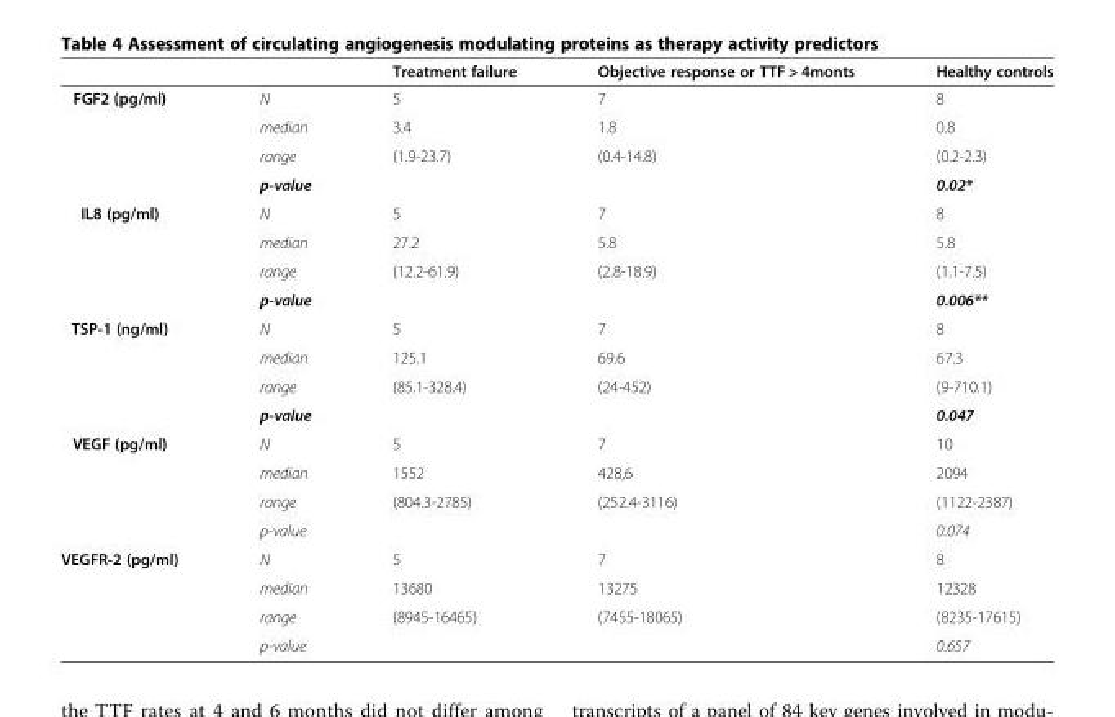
<table><thead><tr><td></td><td></td><td>Treatment failure</td><td>Objective response or TTF &gt; 4monts</td><td>Healthy controls</td></tr></thead><tbody><tr><td rowspan="4">FGF2 (pg/ml)</td><td>N</td><td>5</td><td>7</td><td>8</td></tr><tr><td>median</td><td>3.4</td><td>1.8</td><td>0.8</td></tr><tr><td>range</td><td>(1.9-23.7)</td><td>(0.4-14.8)</td><td>(0.2-2.3)</td></tr><tr><td>p-value</td><td></td><td></td><td>0.02*</td></tr><tr><td rowspan="4">IL8 (pg/ml)</td><td>N</td><td>5</td><td>7</td><td>8</td></tr><tr><td>median</td><td>27.2</td><td>5.8</td><td>5.8</td></tr><tr><td>range</td><td>(12.2-61.9)</td><td>(2.8-18.9)</td><td>(1.1-7.5)</td></tr><tr><td>p-value</td><td></td><td></td><td>0.006**</td></tr><tr><td rowspan="4">TSP-1 (ng/ml)</td><td>N</td><td>5</td><td>7</td><td>8</td></tr><tr><td>median</td><td>125.1</td><td>69.6</td><td>67.3</td></tr><tr><td>range</td><td>(85.1-328.4)</td><td>(24-452)</td><td>(9-710.1)</td></tr><tr><td>p-value</td><td></td><td></td><td>0.047</td></tr><tr><td rowspan="4">VEGF (pg/ml)</td><td>N</td><td>5</td><td>7</td><td>10</td></tr><tr><td>median</td><td>1552</td><td>428,6</td><td>2094</td></tr><tr><td>range</td><td>(804.3-2785)</td><td>(252.4-3116)</td><td>(1122-2387)</td></tr><tr><td>p-value</td><td></td><td></td><td>0.074</td></tr><tr><td rowspan="4">VEGFR-2 (pg/ml)</td><td>N</td><td>5</td><td>7</td><td>8</td></tr><tr><td>median</td><td>13680</td><td>13275</td><td>12328</td></tr><tr><td>range</td><td>(8945-16465)</td><td>(7455-18065)</td><td>(8235-17615)</td></tr><tr><td>p-value</td><td></td><td></td><td>0.657</td></tr></tbody></table>